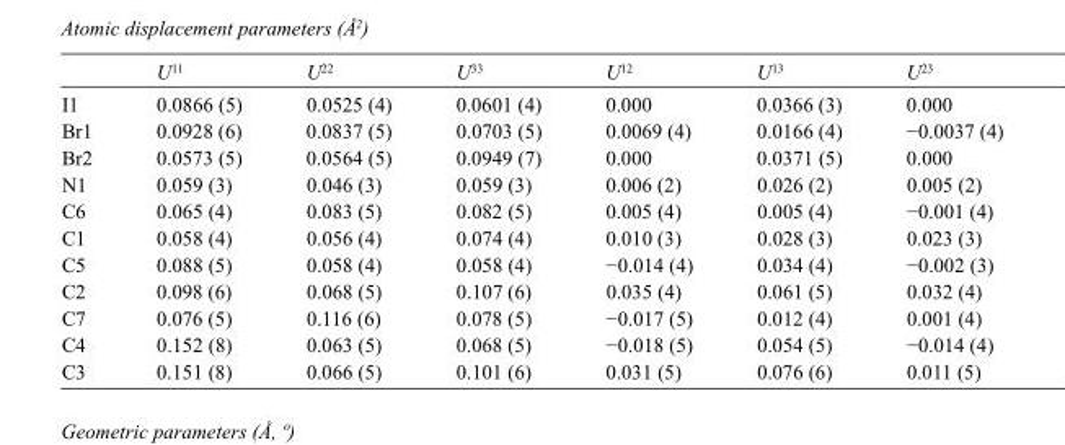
<table><thead><tr><td></td><td>U<sup>11</sup></td><td>U<sup>22</sup></td><td>U<sup>33</sup></td><td>U<sup>12</sup></td><td>U<sup>13</sup></td><td>U<sup>23</sup></td></tr></thead><tbody><tr><td>I1</td><td>0.0866 (5)</td><td>0.0525 (4)</td><td>0.0601 (4)</td><td>0.000</td><td>0.0366 (3)</td><td>0.000</td></tr><tr><td>Br1</td><td>0.0928 (6)</td><td>0.0837 (5)</td><td>0.0703 (5)</td><td>0.0069 (4)</td><td>0.0166 (4)</td><td>−0.0037 (4)</td></tr><tr><td>Br2</td><td>0.0573 (5)</td><td>0.0564 (5)</td><td>0.0949 (7)</td><td>0.000</td><td>0.0371 (5)</td><td>0.000</td></tr><tr><td>N1</td><td>0.059 (3)</td><td>0.046 (3)</td><td>0.059 (3)</td><td>0.006 (2)</td><td>0.026 (2)</td><td>0.005 (2)</td></tr><tr><td>C6</td><td>0.065 (4)</td><td>0.083 (5)</td><td>0.082 (5)</td><td>0.005 (4)</td><td>0.005 (4)</td><td>−0.001 (4)</td></tr><tr><td>C1</td><td>0.058 (4)</td><td>0.056 (4)</td><td>0.074 (4)</td><td>0.010 (3)</td><td>0.028 (3)</td><td>0.023 (3)</td></tr><tr><td>C5</td><td>0.088 (5)</td><td>0.058 (4)</td><td>0.058 (4)</td><td>−0.014 (4)</td><td>0.034 (4)</td><td>−0.002 (3)</td></tr><tr><td>C2</td><td>0.098 (6)</td><td>0.068 (5)</td><td>0.107 (6)</td><td>0.035 (4)</td><td>0.061 (5)</td><td>0.032 (4)</td></tr><tr><td>C7</td><td>0.076 (5)</td><td>0.116 (6)</td><td>0.078 (5)</td><td>−0.017 (5)</td><td>0.012 (4)</td><td>0.001 (4)</td></tr><tr><td>C4</td><td>0.152 (8)</td><td>0.063 (5)</td><td>0.068 (5)</td><td>−0.018 (5)</td><td>0.054 (5)</td><td>−0.014 (4)</td></tr><tr><td>C3</td><td>0.151 (8)</td><td>0.066 (5)</td><td>0.101 (6)</td><td>0.031 (5)</td><td>0.076 (6)</td><td>0.011 (5)</td></tr></tbody></table>